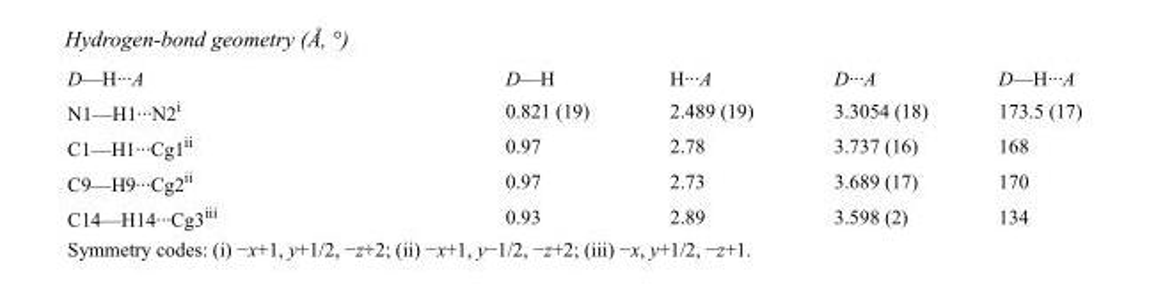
<table><tbody><tr><td>D—H···A</td><td>D—H</td><td>H···A</td><td>D···A</td><td>D—H···A</td></tr><tr><td>N1—H1···N2<sup>i</sup></td><td>0.821 (19)</td><td>2.489 (19)</td><td>3.3054 (18)</td><td>173.5 (17)</td></tr><tr><td>C1—H1···Cg1<sup>ii</sup></td><td>0.97</td><td>2.78</td><td>3.737 (16)</td><td>168</td></tr><tr><td>C9—H9···Cg2<sup>ii</sup></td><td>0.97</td><td>2.73</td><td>3.689 (17)</td><td>170</td></tr><tr><td>C14—H14···Cg3<sup>iii</sup></td><td>0.93</td><td>2.89</td><td>3.598 (2)</td><td>134</td></tr></tbody></table>